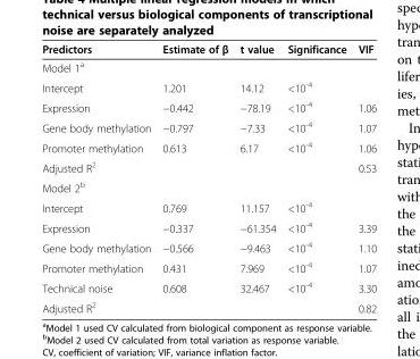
<table><thead><tr><td>Predictors</td><td>Estimate of β</td><td>t value</td><td>Significance</td><td>VIF</td></tr></thead><tbody><tr><td colspan="5">Model 1<sup>a</sup></td></tr><tr><td>Intercept</td><td>1.201</td><td>14.12</td><td>&lt;10<sup>-4</sup></td><td></td></tr><tr><td>Expression</td><td>−0.442</td><td>−78.19</td><td>&lt;10<sup>-4</sup></td><td>1.06</td></tr><tr><td>Gene body methylation</td><td>−0.797</td><td>−7.33</td><td>&lt;10<sup>-4</sup></td><td>1.07</td></tr><tr><td>Promoter methylation</td><td>0.613</td><td>6.17</td><td>&lt;10<sup>-4</sup></td><td>1.06</td></tr><tr><td>Adjusted R<sup>2</sup></td><td></td><td></td><td></td><td>0.53</td></tr><tr><td colspan="5">Model 2<sup>b</sup></td></tr><tr><td>Intercept</td><td>0.769</td><td>11.157</td><td>&lt;10<sup>-4</sup></td><td></td></tr><tr><td>Expression</td><td>−0.337</td><td>−61.354</td><td>&lt;10<sup>-4</sup></td><td>3.39</td></tr><tr><td>Gene body methylation</td><td>−0.566</td><td>−9.463</td><td>&lt;10<sup>-4</sup></td><td>1.10</td></tr><tr><td>Promoter methylation</td><td>0.431</td><td>7.969</td><td>&lt;10<sup>-4</sup></td><td>1.07</td></tr><tr><td>Technical noise</td><td>0.608</td><td>32.467</td><td>&lt;10<sup>-4</sup></td><td>3.30</td></tr><tr><td>Adjusted R<sup>2</sup></td><td></td><td></td><td></td><td>0.82</td></tr></tbody></table>